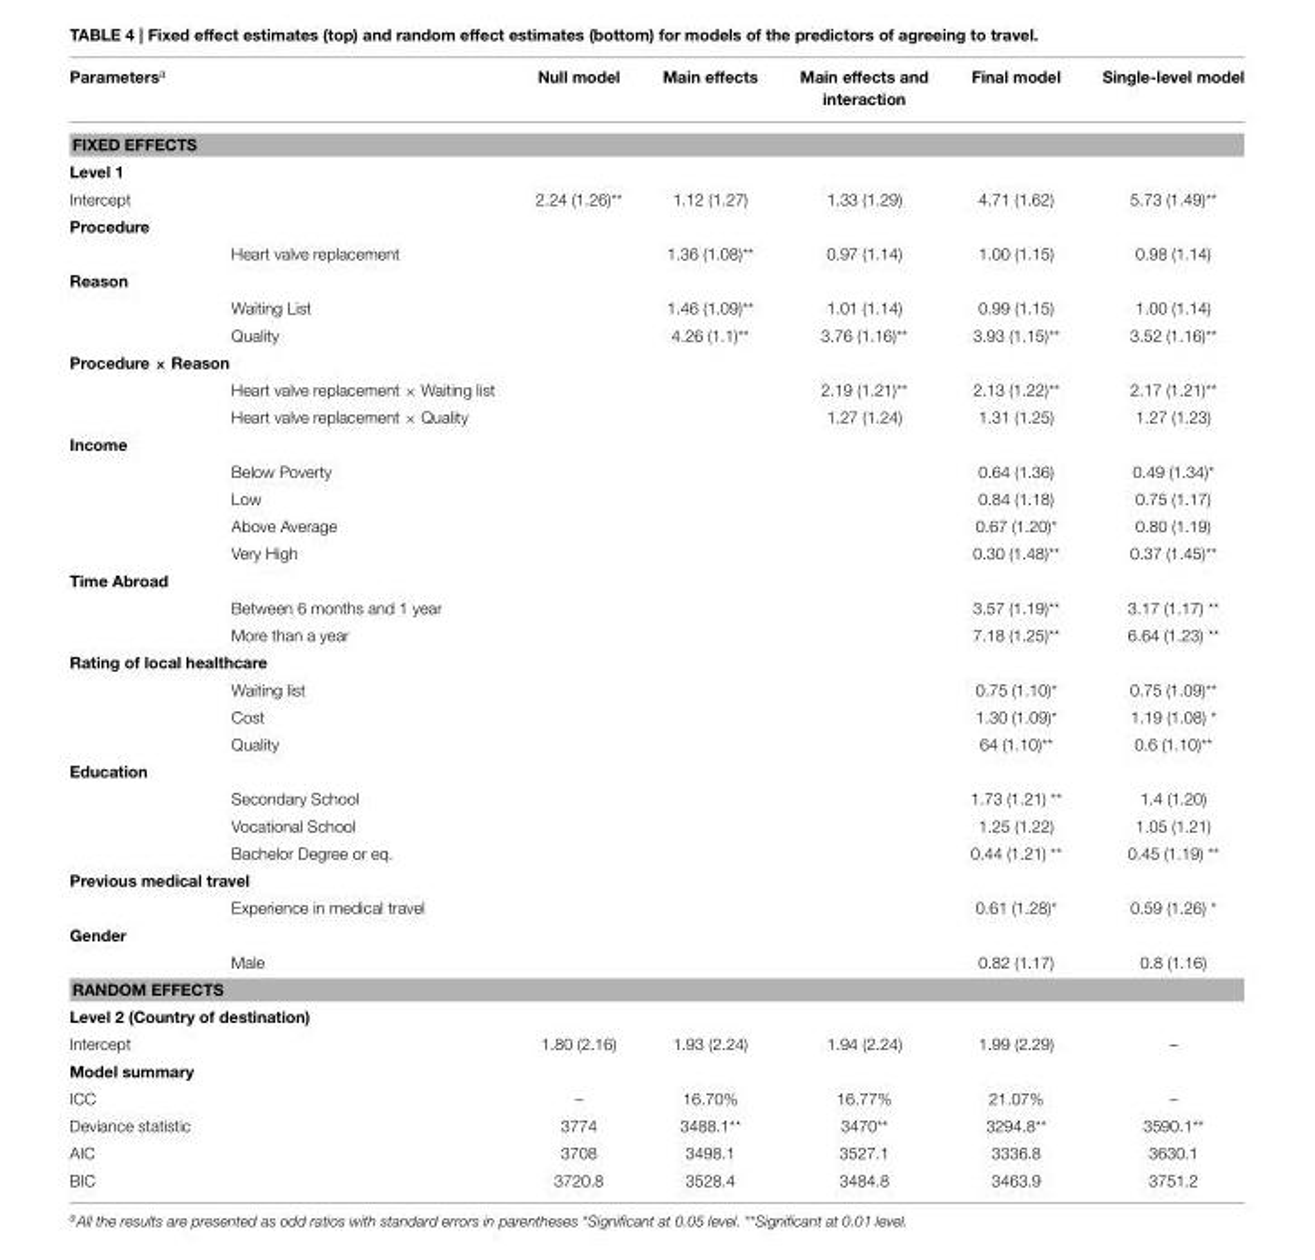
<table><thead><tr><td>Parameters<sup>a</sup></td><td></td><td>Null model</td><td>Main effects</td><td>Main effects and interaction</td><td>Final model</td><td>Single-level model</td></tr></thead><tbody><tr><td colspan="7">FIXED EFFECTS</td></tr><tr><td colspan="7">Level 1</td></tr><tr><td>Intercept</td><td></td><td>2.24 (1.26)**</td><td>1.12 (1.27)</td><td>1.33 (1.29)</td><td>4.71 (1.62)</td><td>5.73 (1.49)**</td></tr><tr><td colspan="7">Procedure</td></tr><tr><td></td><td>Heart valve replacement</td><td></td><td>1.36 (1.08)**</td><td>0.97 (1.14)</td><td>1.00 (1.15)</td><td>0.98 (1.14)</td></tr><tr><td colspan="7">Reason</td></tr><tr><td></td><td>Waiting List</td><td></td><td>1.46 (1.09)**</td><td>1.01 (1.14)</td><td>0.99 (1.15)</td><td>1.00 (1.14)</td></tr><tr><td></td><td>Quality</td><td></td><td>4.26 (1.1)**</td><td>3.76 (1.16)**</td><td>3.93 (1.15)**</td><td>3.52 (1.16)**</td></tr><tr><td colspan="7">Procedure × Reason</td></tr><tr><td></td><td>Heart valve replacement × Waiting list</td><td></td><td></td><td>2.19 (1.21)**</td><td>2.13 (1.22)**</td><td>2.17 (1.21)**</td></tr><tr><td></td><td>Heart valve replacement × Quality</td><td></td><td></td><td>1.27 (1.24)</td><td>1.31 (1.25)</td><td>1.27 (1.23)</td></tr><tr><td colspan="7">Income</td></tr><tr><td></td><td>Below Poverty</td><td></td><td></td><td></td><td>0.64 (1.36)</td><td>0.49 (1.34)*</td></tr><tr><td></td><td>Low</td><td></td><td></td><td></td><td>0.84 (1.18)</td><td>0.75 (1.17)</td></tr><tr><td></td><td>Above Average</td><td></td><td></td><td></td><td>0.67 (1.20)*</td><td>0.80 (1.19)</td></tr><tr><td></td><td>Very High</td><td></td><td></td><td></td><td>0.30 (1.48)**</td><td>0.37 (1.45)**</td></tr><tr><td colspan="7">Time Abroad</td></tr><tr><td></td><td>Between 6 months and 1 year</td><td></td><td></td><td></td><td>3.57 (1.19)**</td><td>3.17 (1.17) **</td></tr><tr><td></td><td>More than a year</td><td></td><td></td><td></td><td>7.18 (1.25)**</td><td>6.64 (1.23) **</td></tr><tr><td colspan="7">Rating of local healthcare</td></tr><tr><td></td><td>Waiting list</td><td></td><td></td><td></td><td>0.75 (1.10)*</td><td>0.75 (1.09)**</td></tr><tr><td></td><td>Cost</td><td></td><td></td><td></td><td>1.30 (1.09)*</td><td>1.19 (1.08) *</td></tr><tr><td></td><td>Quality</td><td></td><td></td><td></td><td>64 (1.10)**</td><td>0.6 (1.10)**</td></tr><tr><td colspan="7">Education</td></tr><tr><td></td><td>Secondary School</td><td></td><td></td><td></td><td>1.73 (1.21) **</td><td>1.4 (1.20)</td></tr><tr><td></td><td>Vocational School</td><td></td><td></td><td></td><td>1.25 (1.22)</td><td>1.05 (1.21)</td></tr><tr><td></td><td>Bachelor Degree or eq.</td><td></td><td></td><td></td><td>0.44 (1.21) **</td><td>0.45 (1.19) **</td></tr><tr><td colspan="7">Previous medical travel</td></tr><tr><td></td><td>Experience in medical travel</td><td></td><td></td><td></td><td>0.61 (1.28)*</td><td>0.59 (1.26) *</td></tr><tr><td colspan="7">Gender</td></tr><tr><td></td><td>Male</td><td></td><td></td><td></td><td>0.82 (1.17)</td><td>0.8 (1.16)</td></tr><tr><td colspan="7">RANDOM EFFECTS</td></tr><tr><td colspan="7">Level 2 (Country of destination)</td></tr><tr><td>Intercept</td><td></td><td>1.80 (2.16)</td><td>1.93 (2.24)</td><td>1.94 (2.24)</td><td>1.99 (2.29)</td><td>–</td></tr><tr><td colspan="7">Model summary</td></tr><tr><td>ICC</td><td></td><td>–</td><td>16.70%</td><td>16.77%</td><td>21.07%</td><td>–</td></tr><tr><td>Deviance statistic</td><td></td><td>3774</td><td>3488.1**</td><td>3470**</td><td>3294.8**</td><td>3590.1**</td></tr><tr><td>AIC</td><td></td><td>3708</td><td>3498.1</td><td>3527.1</td><td>3336.8</td><td>3630.1</td></tr><tr><td>BIC</td><td></td><td>3720.8</td><td>3528.4</td><td>3484.8</td><td>3463.9</td><td>3751.2</td></tr></tbody></table>